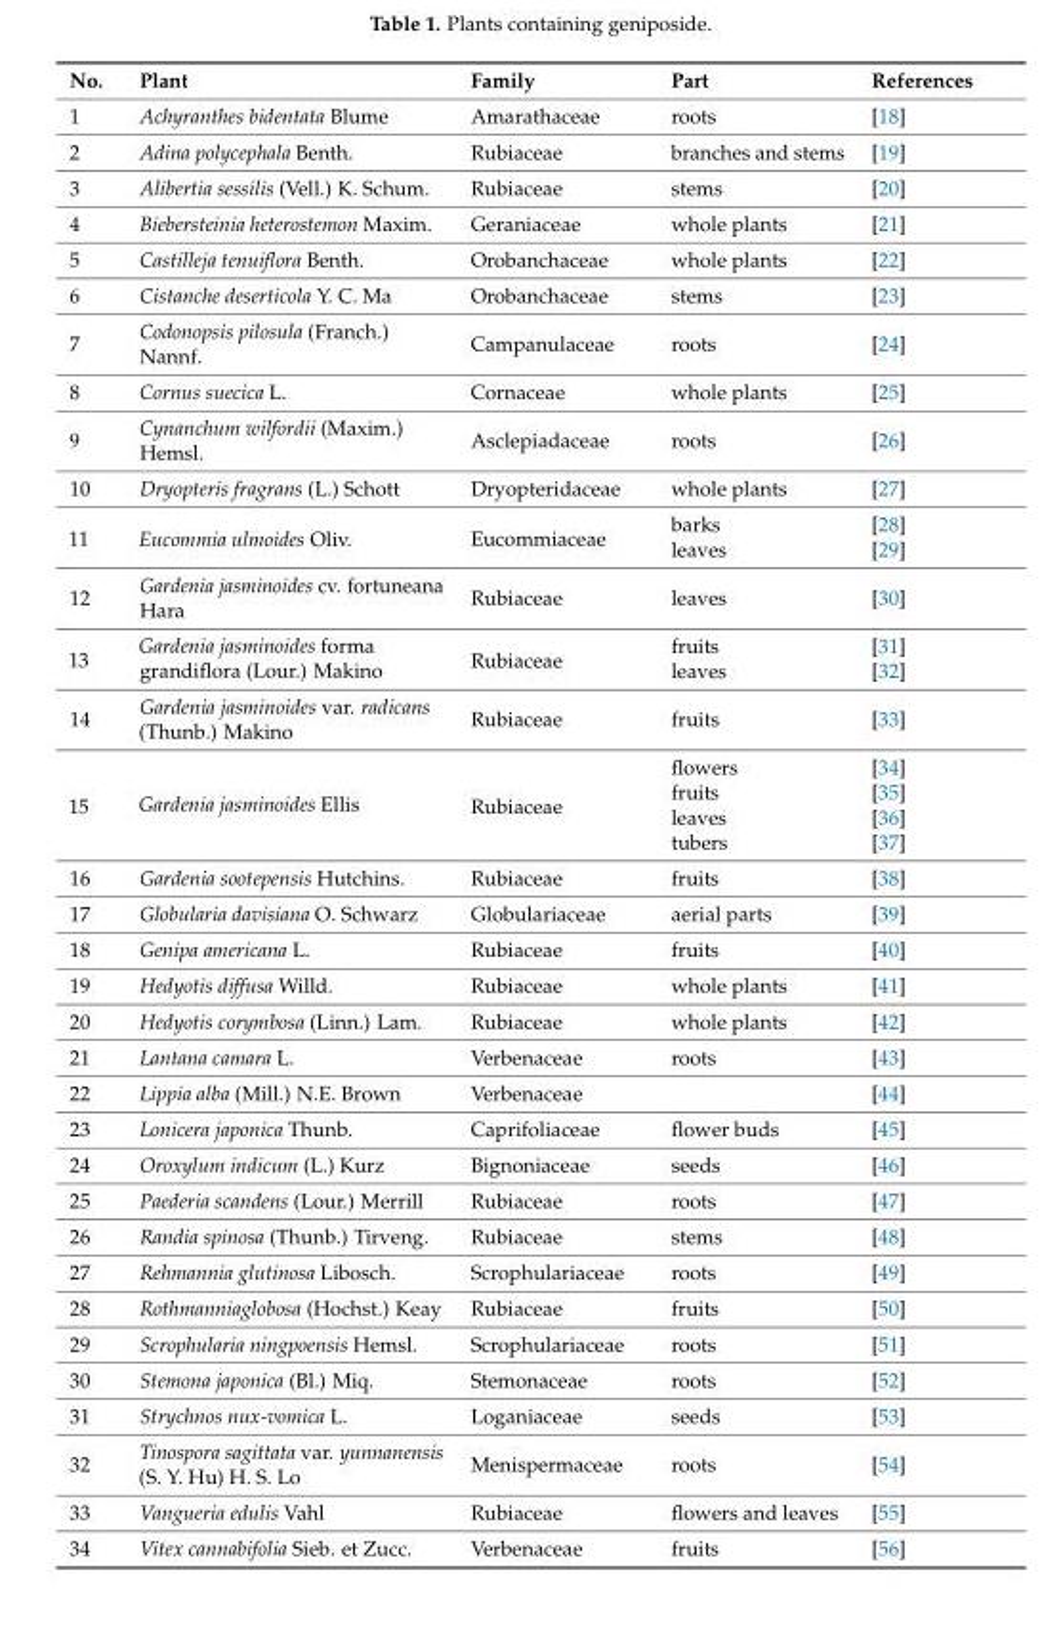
<table><thead><tr><td>No.</td><td>Plant</td><td>Family</td><td>Part</td><td>References</td></tr></thead><tbody><tr><td>1</td><td>Achyranthes bidentata Blume</td><td>Amarathaceae</td><td>roots</td><td>[18]</td></tr><tr><td>2</td><td>Adina polycephala Benth.</td><td>Rubiaceae</td><td>branches and stems</td><td>[19]</td></tr><tr><td>3</td><td>Alibertia sessilis (Vell.) K. Schum.</td><td>Rubiaceae</td><td>stems</td><td>[20]</td></tr><tr><td>4</td><td>Biebersteinia heterostemon Maxim.</td><td>Geraniaceae</td><td>whole plants</td><td>[21]</td></tr><tr><td>5</td><td>Castilleja tenuiflora Benth.</td><td>Orobanchaceae</td><td>whole plants</td><td>[22]</td></tr><tr><td>6</td><td>Cistanche deserticola Y. C. Ma</td><td>Orobanchaceae</td><td>stems</td><td>[23]</td></tr><tr><td>7</td><td>Codonopsis pilosula (Franch.) Nannf.</td><td>Campanulaceae</td><td>roots</td><td>[24]</td></tr><tr><td>8</td><td>Cornus suecica L.</td><td>Cornaceae</td><td>whole plants</td><td>[25]</td></tr><tr><td>9</td><td>Cynanchum wilfordii (Maxim.) Hemsl.</td><td>Asclepiadaceae</td><td>roots</td><td>[26]</td></tr><tr><td>10</td><td>Dryopteris fragrans (L.) Schott</td><td>Dryopteridaceae</td><td>whole plants</td><td>[27]</td></tr><tr><td rowspan="2">11</td><td rowspan="2">Eucommia ulmoides Oliv.</td><td rowspan="2">Eucommiaceae</td><td>barks</td><td>[28]</td></tr><tr><td>leaves</td><td>[29]</td></tr><tr><td>12</td><td>Gardenia jasminoides cv. fortuneana Hara</td><td>Rubiaceae</td><td>leaves</td><td>[30]</td></tr><tr><td rowspan="2">13</td><td rowspan="2">Gardenia jasminoides forma grandiflora (Lour.) Makino</td><td rowspan="2">Rubiaceae</td><td>fruits</td><td>[31]</td></tr><tr><td>leaves</td><td>[32]</td></tr><tr><td>14</td><td>Gardenia jasminoides var. radicans (Thunb.) Makino</td><td>Rubiaceae</td><td>fruits</td><td>[33]</td></tr><tr><td rowspan="4">15</td><td rowspan="4">Gardenia jasminoides Ellis</td><td rowspan="4">Rubiaceae</td><td>flowers</td><td>[34]</td></tr><tr><td>fruits</td><td>[35]</td></tr><tr><td>leaves</td><td>[36]</td></tr><tr><td>tubers</td><td>[37]</td></tr><tr><td>16</td><td>Gardenia sootepensis Hutchins.</td><td>Rubiaceae</td><td>fruits</td><td>[38]</td></tr><tr><td>17</td><td>Globularia davisiana O. Schwarz</td><td>Globulariaceae</td><td>aerial parts</td><td>[39]</td></tr><tr><td>18</td><td>Genipa americana L.</td><td>Rubiaceae</td><td>fruits</td><td>[40]</td></tr><tr><td>19</td><td>Hedyotis diffusa Willd.</td><td>Rubiaceae</td><td>whole plants</td><td>[41]</td></tr><tr><td>20</td><td>Hedyotis corymbosa (Linn.) Lam.</td><td>Rubiaceae</td><td>whole plants</td><td>[42]</td></tr><tr><td>21</td><td>Lantana camara L.</td><td>Verbenaceae</td><td>roots</td><td>[43]</td></tr><tr><td>22</td><td>Lippia alba (Mill.) N.E. Brown</td><td>Verbenaceae</td><td></td><td>[44]</td></tr><tr><td>23</td><td>Lonicera japonica Thunb.</td><td>Caprifoliaceae</td><td>flower buds</td><td>[45]</td></tr><tr><td>24</td><td>Oroxylum indicum (L.) Kurz</td><td>Bignoniaceae</td><td>seeds</td><td>[46]</td></tr><tr><td>25</td><td>Paederia scandens (Lour.) Merrill</td><td>Rubiaceae</td><td>roots</td><td>[47]</td></tr><tr><td>26</td><td>Randia spinosa (Thunb.) Tirveng.</td><td>Rubiaceae</td><td>stems</td><td>[48]</td></tr><tr><td>27</td><td>Rehmannia glutinosa Libosch.</td><td>Scrophulariaceae</td><td>roots</td><td>[49]</td></tr><tr><td>28</td><td>Rothmanniaglobosa (Hochst.) Keay</td><td>Rubiaceae</td><td>fruits</td><td>[50]</td></tr><tr><td>29</td><td>Scrophularia ningpoensis Hemsl.</td><td>Scrophulariaceae</td><td>roots</td><td>[51]</td></tr><tr><td>30</td><td>Stemona japonica (Bl.) Miq.</td><td>Stemonaceae</td><td>roots</td><td>[52]</td></tr><tr><td>31</td><td>Strychnos nux-vomica L.</td><td>Loganiaceae</td><td>seeds</td><td>[53]</td></tr><tr><td>32</td><td>Tinospora sagittata var. yunnanensis (S. Y. Hu) H. S. Lo</td><td>Menispermaceae</td><td>roots</td><td>[54]</td></tr><tr><td>33</td><td>Vangueria edulis Vahl</td><td>Rubiaceae</td><td>flowers and leaves</td><td>[55]</td></tr><tr><td>34</td><td>Vitex cannabifolia Sieb. et Zucc.</td><td>Verbenaceae</td><td>fruits</td><td>[56]</td></tr></tbody></table>